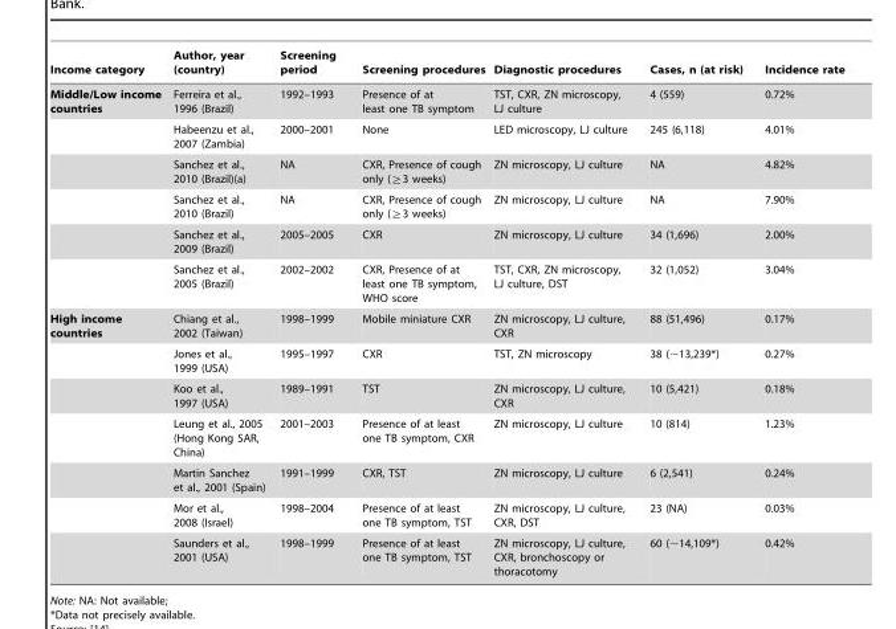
<table><thead><tr><td>Income category</td><td>Author, year (country)</td><td>Screening period</td><td>Screening procedures</td><td>Diagnostic procedures</td><td>Cases, n (at risk)</td><td>Incidence rate</td></tr></thead><tbody><tr><td rowspan="6">Middle/Low income countries</td><td>Ferreira et al., 1996 (Brazil)</td><td>1992–1993</td><td>Presence of at least one TB symptom</td><td>TST, CXR, ZN microscopy, LJ culture</td><td>4 (559)</td><td>0.72%</td></tr><tr><td>Habeenzu et al., 2007 (Zambia)</td><td>2000–2001</td><td>None</td><td>LED microscopy, LJ culture</td><td>245 (6,118)</td><td>4.01%</td></tr><tr><td>Sanchez et al., 2010 (Brazil)(a)</td><td>NA</td><td>CXR, Presence of cough only (≧3 weeks)</td><td>ZN microscopy, LJ culture</td><td>NA</td><td>4.82%</td></tr><tr><td>Sanchez et al., 2010 (Brazil)</td><td>NA</td><td>CXR, Presence of cough only (≧3 weeks)</td><td>ZN microscopy, LJ culture</td><td>NA</td><td>7.90%</td></tr><tr><td>Sanchez et al., 2009 (Brazil)</td><td>2005–2005</td><td>CXR</td><td>ZN microscopy, LJ culture</td><td>34 (1,696)</td><td>2.00%</td></tr><tr><td>Sanchez et al., 2005 (Brazil)</td><td>2002–2002</td><td>CXR, Presence of at least one TB symptom, WHO score</td><td>TST, CXR, ZN microscopy, LJ culture, DST</td><td>32 (1,052)</td><td>3.04%</td></tr><tr><td rowspan="7">High income countries</td><td>Chiang et al., 2002 (Taiwan)</td><td>1998–1999</td><td>Mobile miniature CXR</td><td>ZN microscopy, LJ culture, CXR</td><td>88 (51,496)</td><td>0.17%</td></tr><tr><td>Jones et al., 1999 (USA)</td><td>1995–1997</td><td>CXR</td><td>TST, ZN microscopy</td><td>38 (∼13,239*)</td><td>0.27%</td></tr><tr><td>Koo et al., 1997 (USA)</td><td>1989–1991</td><td>TST</td><td>ZN microscopy, LJ culture, CXR</td><td>10 (5,421)</td><td>0.18%</td></tr><tr><td>Leung et al., 2005 (Hong Kong SAR, China)</td><td>2001–2003</td><td>Presence of at least one TB symptom, CXR</td><td>ZN microscopy, LJ culture</td><td>10 (814)</td><td>1.23%</td></tr><tr><td>Martin Sanchez et al., 2001 (Spain)</td><td>1991–1999</td><td>CXR, TST</td><td>ZN microscopy, LJ culture</td><td>6 (2,541)</td><td>0.24%</td></tr><tr><td>Mor et al., 2008 (Israel)</td><td>1998–2004</td><td>Presence of at least one TB symptom, TST</td><td>ZN microscopy, LJ culture, CXR, DST</td><td>23 (NA)</td><td>0.03%</td></tr><tr><td>Saunders et al., 2001 (USA)</td><td>1998–1999</td><td>Presence of at least one TB symptom, TST</td><td>ZN microscopy, LJ culture, CXR, bronchoscopy or thoracotomy</td><td>60 (∼14,109*)</td><td>0.42%</td></tr></tbody></table>